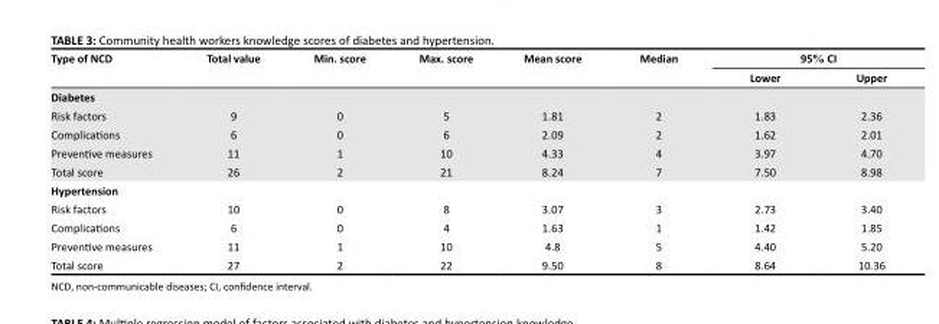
<table><thead><tr><td rowspan="2">Type of NCD</td><td rowspan="2">Total value</td><td rowspan="2">Min. score</td><td rowspan="2">Max. score</td><td rowspan="2">Mean score</td><td rowspan="2">Median</td><td colspan="2">95% CI</td></tr><tr><td>Lower</td><td>Upper</td></tr></thead><tbody><tr><td colspan="8">Diabetes</td></tr><tr><td>Risk factors</td><td>9</td><td>0</td><td>5</td><td>1.81</td><td>2</td><td>1.83</td><td>2.36</td></tr><tr><td>Complications</td><td>6</td><td>0</td><td>6</td><td>2.09</td><td>2</td><td>1.62</td><td>2.01</td></tr><tr><td>Preventive measures</td><td>11</td><td>1</td><td>10</td><td>4.33</td><td>4</td><td>3.97</td><td>4.70</td></tr><tr><td>Total score</td><td>26</td><td>2</td><td>21</td><td>8.24</td><td>7</td><td>7.50</td><td>8.98</td></tr><tr><td colspan="8">Hypertension</td></tr><tr><td>Risk factors</td><td>10</td><td>0</td><td>8</td><td>3.07</td><td>3</td><td>2.73</td><td>3.40</td></tr><tr><td>Complications</td><td>6</td><td>0</td><td>4</td><td>1.63</td><td>1</td><td>1.42</td><td>1.85</td></tr><tr><td>Preventive measures</td><td>11</td><td>1</td><td>10</td><td>4.8</td><td>5</td><td>4.40</td><td>5.20</td></tr><tr><td>Total score</td><td>27</td><td>2</td><td>22</td><td>9.50</td><td>8</td><td>8.64</td><td>10.36</td></tr></tbody></table>